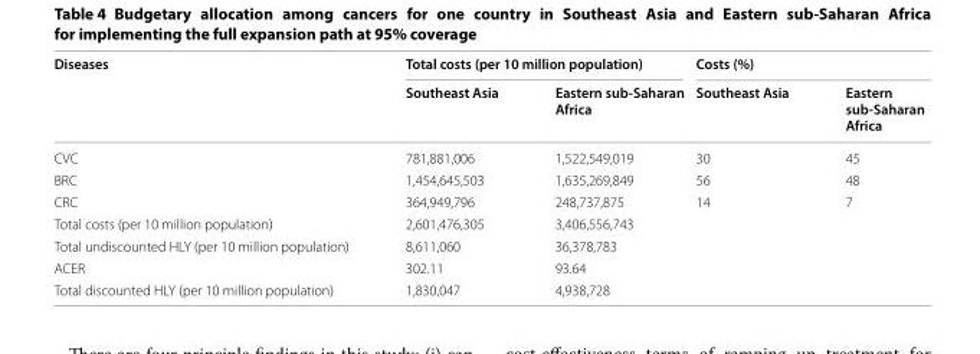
<table><thead><tr><td rowspan="2">Diseases</td><td colspan="2">Total costs (per 10 million population)</td><td colspan="2">Costs (%)</td></tr><tr><td>Southeast Asia</td><td>Eastern sub-Saharan Africa</td><td>Southeast Asia</td><td>Eastern sub-Saharan Africa</td></tr></thead><tbody><tr><td>CVC</td><td>781,881,006</td><td>1,522,549,019</td><td>30</td><td>45</td></tr><tr><td>BRC</td><td>1,454,645,503</td><td>1,635,269,849</td><td>56</td><td>48</td></tr><tr><td>CRC</td><td>364,949,796</td><td>248,737,875</td><td>14</td><td>7</td></tr><tr><td>Total costs (per 10 million population)</td><td>2,601,476,305</td><td>3,406,556,743</td><td></td><td></td></tr><tr><td>Total undiscounted HLY (per 10 million population)</td><td>8,611,060</td><td>36,378,783</td><td></td><td></td></tr><tr><td>ACER</td><td>302.11</td><td>93.64</td><td></td><td></td></tr><tr><td>Total discounted HLY (per 10 million population)</td><td>1,830,047</td><td>4,938,728</td><td></td><td></td></tr></tbody></table>